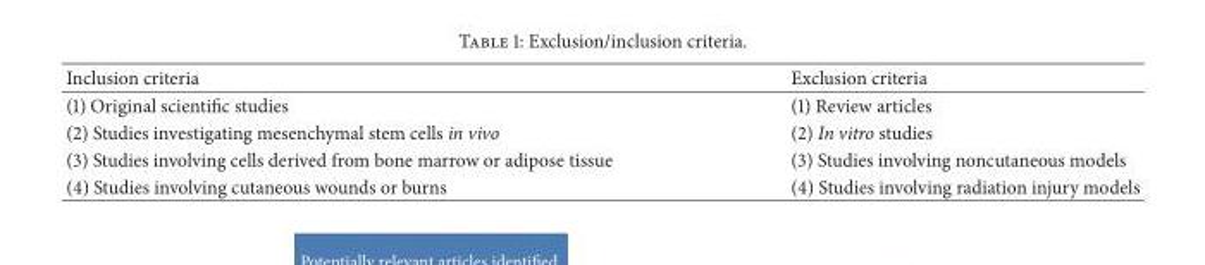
<table><thead><tr><td>Inclusion criteria</td><td>Exclusion criteria</td></tr></thead><tbody><tr><td>(1) Original scientific studies</td><td>(1) Review articles</td></tr><tr><td>(2) Studies investigating mesenchymal stem cells in vivo</td><td>(2) In vitro studies</td></tr><tr><td>(3) Studies involving cells derived from bone marrow or adipose tissue</td><td>(3) Studies involving noncutaneous models</td></tr><tr><td>(4) Studies involving cutaneous wounds or burns</td><td>(4) Studies involving radiation injury models</td></tr></tbody></table>